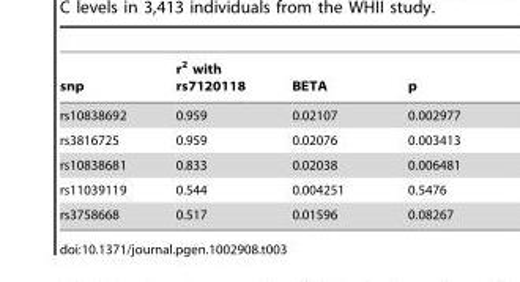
<table><thead><tr><td>snp</td><td>r<sup>2</sup> with rs7120118</td><td>BETA</td><td>p</td></tr></thead><tbody><tr><td>rs10838692</td><td>0.959</td><td>0.02107</td><td>0.002977</td></tr><tr><td>rs3816725</td><td>0.959</td><td>0.02076</td><td>0.003413</td></tr><tr><td>rs10838681</td><td>0.833</td><td>0.02038</td><td>0.006481</td></tr><tr><td>rs11039119</td><td>0.544</td><td>0.004251</td><td>0.5476</td></tr><tr><td>rs3758668</td><td>0.517</td><td>0.01596</td><td>0.08267</td></tr></tbody></table>